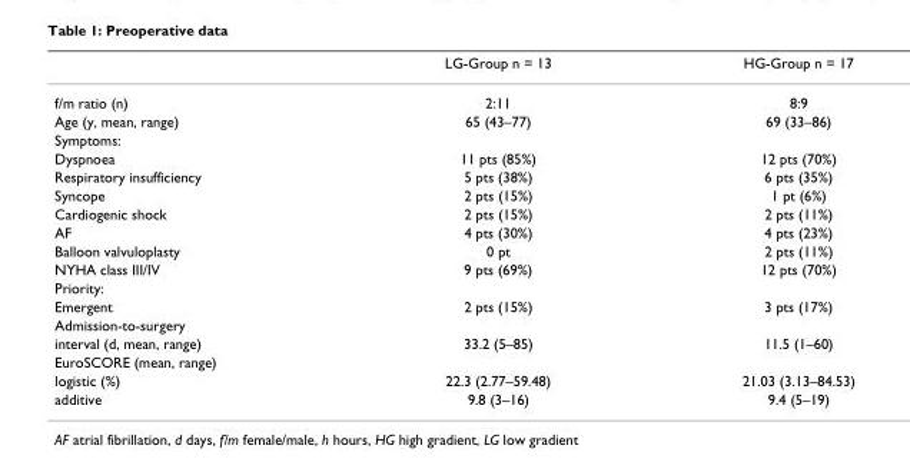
<table><thead><tr><td></td><td>LG-Group n = 13</td><td>HG-Group n = 17</td></tr></thead><tbody><tr><td>f/m ratio (n)</td><td>2:11</td><td>8:9</td></tr><tr><td>Age (y, mean, range)</td><td>65 (43–77)</td><td>69 (33–86)</td></tr><tr><td colspan="3">Symptoms:</td></tr><tr><td>Dyspnoea</td><td>11 pts (85%)</td><td>12 pts (70%)</td></tr><tr><td>Respiratory insufficiency</td><td>5 pts (38%)</td><td>6 pts (35%)</td></tr><tr><td>Syncope</td><td>2 pts (15%)</td><td>1 pt (6%)</td></tr><tr><td>Cardiogenic shock</td><td>2 pts (15%)</td><td>2 pts (11%)</td></tr><tr><td>AF</td><td>4 pts (30%)</td><td>4 pts (23%)</td></tr><tr><td>Balloon valvuloplasty</td><td>0 pt</td><td>2 pts (11%)</td></tr><tr><td>NYHA class III/IV</td><td>9 pts (69%)</td><td>12 pts (70%)</td></tr><tr><td colspan="3">Priority:</td></tr><tr><td>Emergent</td><td>2 pts (15%)</td><td>3 pts (17%)</td></tr><tr><td colspan="3">Admission-to-surgery</td></tr><tr><td>interval (d, mean, range)</td><td>33.2 (5–85)</td><td>11.5 (1–60)</td></tr><tr><td colspan="3">EuroSCORE (mean, range)</td></tr><tr><td>logistic (%)</td><td>22.3 (2.77–59.48)</td><td>21.03 (3.13–84.53)</td></tr><tr><td>additive</td><td>9.8 (3–16)</td><td>9.4 (5–19)</td></tr></tbody></table>